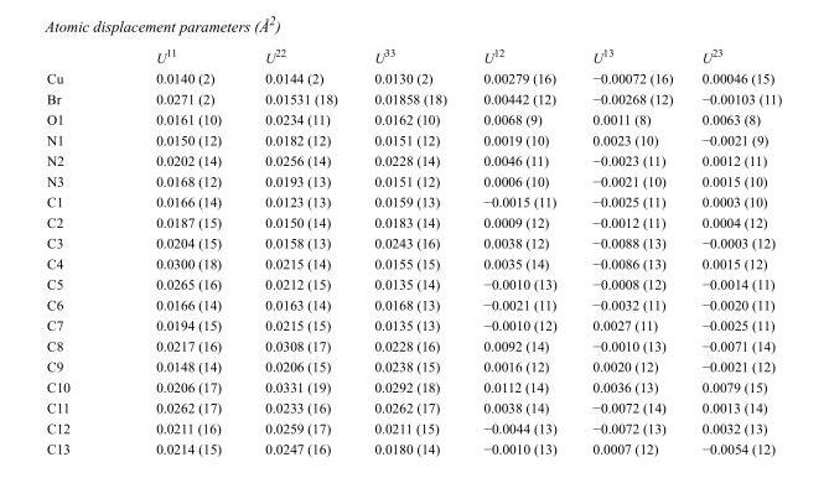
<table><thead><tr><td></td><td>U<sup>11</sup></td><td>U<sup>22</sup></td><td>U<sup>33</sup></td><td>U<sup>12</sup></td><td>U<sup>13</sup></td><td>U<sup>23</sup></td></tr></thead><tbody><tr><td>Cu</td><td>0.0140 (2)</td><td>0.0144 (2)</td><td>0.0130 (2)</td><td>0.00279 (16)</td><td>−0.00072 (16)</td><td>0.00046 (15)</td></tr><tr><td>Br</td><td>0.0271 (2)</td><td>0.01531 (18)</td><td>0.01858 (18)</td><td>0.00442 (12)</td><td>−0.00268 (12)</td><td>−0.00103 (11)</td></tr><tr><td>O1</td><td>0.0161 (10)</td><td>0.0234 (11)</td><td>0.0162 (10)</td><td>0.0068 (9)</td><td>0.0011 (8)</td><td>0.0063 (8)</td></tr><tr><td>N1</td><td>0.0150 (12)</td><td>0.0182 (12)</td><td>0.0151 (12)</td><td>0.0019 (10)</td><td>0.0023 (10)</td><td>−0.0021 (9)</td></tr><tr><td>N2</td><td>0.0202 (14)</td><td>0.0256 (14)</td><td>0.0228 (14)</td><td>0.0046 (11)</td><td>−0.0023 (11)</td><td>0.0012 (11)</td></tr><tr><td>N3</td><td>0.0168 (12)</td><td>0.0193 (13)</td><td>0.0151 (12)</td><td>0.0006 (10)</td><td>−0.0021 (10)</td><td>0.0015 (10)</td></tr><tr><td>C1</td><td>0.0166 (14)</td><td>0.0123 (13)</td><td>0.0159 (13)</td><td>−0.0015 (11)</td><td>−0.0025 (11)</td><td>0.0003 (10)</td></tr><tr><td>C2</td><td>0.0187 (15)</td><td>0.0150 (14)</td><td>0.0183 (14)</td><td>0.0009 (12)</td><td>−0.0012 (11)</td><td>0.0004 (12)</td></tr><tr><td>C3</td><td>0.0204 (15)</td><td>0.0158 (13)</td><td>0.0243 (16)</td><td>0.0038 (12)</td><td>−0.0088 (13)</td><td>−0.0003 (12)</td></tr><tr><td>C4</td><td>0.0300 (18)</td><td>0.0215 (14)</td><td>0.0155 (15)</td><td>0.0035 (14)</td><td>−0.0086 (13)</td><td>0.0015 (12)</td></tr><tr><td>C5</td><td>0.0265 (16)</td><td>0.0212 (15)</td><td>0.0135 (14)</td><td>−0.0010 (13)</td><td>−0.0008 (12)</td><td>−0.0014 (11)</td></tr><tr><td>C6</td><td>0.0166 (14)</td><td>0.0163 (14)</td><td>0.0168 (13)</td><td>−0.0021 (11)</td><td>−0.0032 (11)</td><td>−0.0020 (11)</td></tr><tr><td>C7</td><td>0.0194 (15)</td><td>0.0215 (15)</td><td>0.0135 (13)</td><td>−0.0010 (12)</td><td>0.0027 (11)</td><td>−0.0025 (11)</td></tr><tr><td>C8</td><td>0.0217 (16)</td><td>0.0308 (17)</td><td>0.0228 (16)</td><td>0.0092 (14)</td><td>−0.0010 (13)</td><td>−0.0071 (14)</td></tr><tr><td>C9</td><td>0.0148 (14)</td><td>0.0206 (15)</td><td>0.0238 (15)</td><td>0.0016 (12)</td><td>0.0020 (12)</td><td>−0.0021 (12)</td></tr><tr><td>C10</td><td>0.0206 (17)</td><td>0.0331 (19)</td><td>0.0292 (18)</td><td>0.0112 (14)</td><td>0.0036 (13)</td><td>0.0079 (15)</td></tr><tr><td>C11</td><td>0.0262 (17)</td><td>0.0233 (16)</td><td>0.0262 (17)</td><td>0.0038 (14)</td><td>−0.0072 (14)</td><td>0.0013 (14)</td></tr><tr><td>C12</td><td>0.0211 (16)</td><td>0.0259 (17)</td><td>0.0211 (15)</td><td>−0.0044 (13)</td><td>−0.0072 (13)</td><td>0.0032 (13)</td></tr><tr><td>C13</td><td>0.0214 (15)</td><td>0.0247 (16)</td><td>0.0180 (14)</td><td>−0.0010 (13)</td><td>0.0007 (12)</td><td>−0.0054 (12)</td></tr></tbody></table>